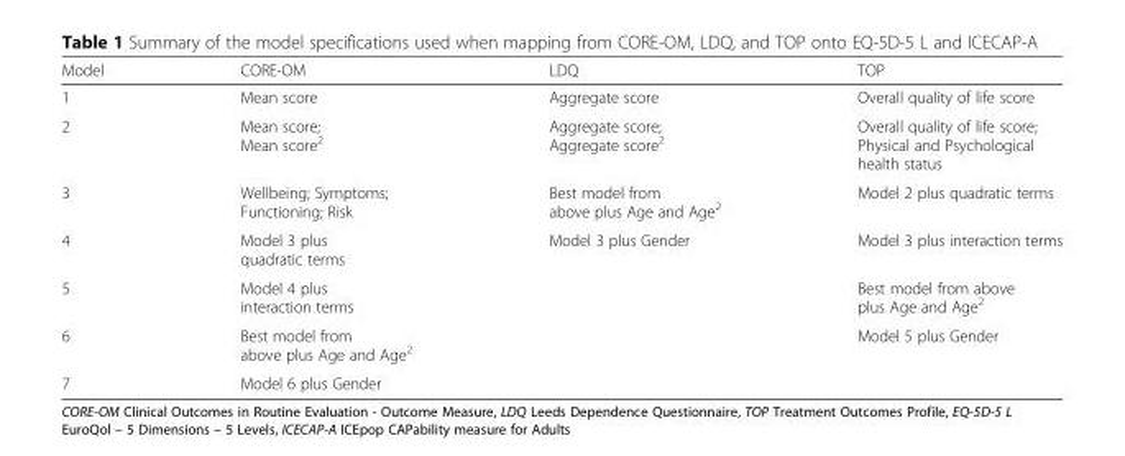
<table><thead><tr><td>Model</td><td>CORE-OM</td><td>LDQ</td><td>TOP</td></tr></thead><tbody><tr><td>1</td><td>Mean score</td><td>Aggregate score</td><td>Overall quality of life score</td></tr><tr><td>2</td><td>Mean score; Mean score<sup>2</sup></td><td>Aggregate score; Aggregate score<sup>2</sup></td><td>Overall quality of life score; Physical and Psychological health status</td></tr><tr><td>3</td><td>Wellbeing; Symptoms; Functioning; Risk</td><td>Best model from above plus Age and Age<sup>2</sup></td><td>Model 2 plus quadratic terms</td></tr><tr><td>4</td><td>Model 3 plus quadratic terms</td><td>Model 3 plus Gender</td><td>Model 3 plus interaction terms</td></tr><tr><td>5</td><td>Model 4 plus interaction terms</td><td rowspan="3"></td><td>Best model from above plus Age and Age<sup>2</sup></td></tr><tr><td>6</td><td>Best model from above plus Age and Age<sup>2</sup></td><td>Model 5 plus Gender</td></tr><tr><td>7</td><td>Model 6 plus Gender</td><td></td></tr></tbody></table>